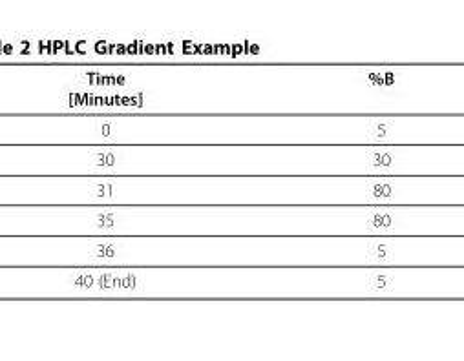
<table><thead><tr><td>Time [Minutes]</td><td>%B</td></tr></thead><tbody><tr><td>0</td><td>5</td></tr><tr><td>30</td><td>30</td></tr><tr><td>31</td><td>80</td></tr><tr><td>35</td><td>80</td></tr><tr><td>36</td><td>5</td></tr><tr><td>40 (End)</td><td>5</td></tr></tbody></table>